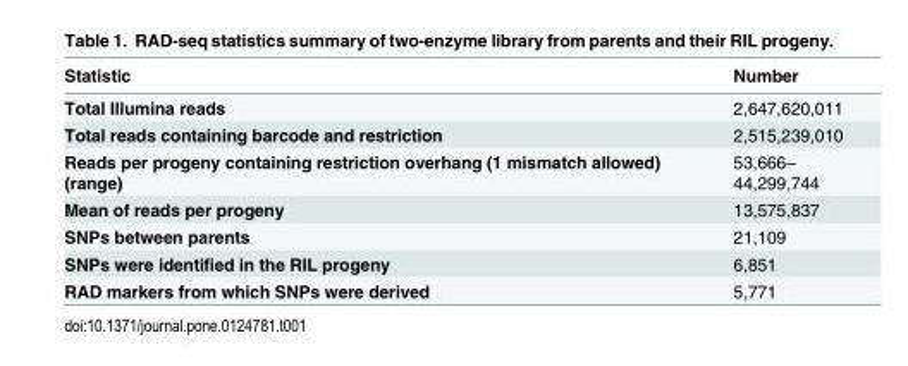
<table><thead><tr><td>Statistic</td><td>Number</td></tr></thead><tbody><tr><td>Total Illumina reads</td><td>2,647,620,011</td></tr><tr><td>Total reads containing barcode and restriction</td><td>2,515,239,010</td></tr><tr><td>Reads per progeny containing restriction overhang (1 mismatch allowed) (range)</td><td>53,666– 44,299,744</td></tr><tr><td>Mean of reads per progeny</td><td>13,575,837</td></tr><tr><td>SNPs between parents</td><td>21,109</td></tr><tr><td>SNPs were identified in the RIL progeny</td><td>6,851</td></tr><tr><td>RAD markers from which SNPs were derived</td><td>5,771</td></tr></tbody></table>